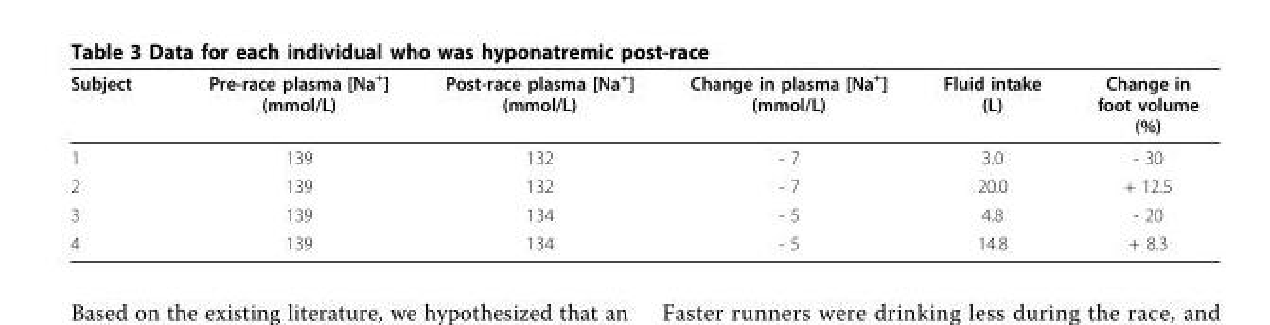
<table><thead><tr><td>Subject</td><td>Pre-race plasma [Na<sup>+</sup>] (mmol/L)</td><td>Post-race plasma [Na<sup>+</sup>] (mmol/L)</td><td>Change in plasma [Na<sup>+</sup>] (mmol/L)</td><td>Fluid intake (L)</td><td>Change in foot volume (%)</td></tr></thead><tbody><tr><td>1</td><td>139</td><td>132</td><td>- 7</td><td>3.0</td><td>- 30</td></tr><tr><td>2</td><td>139</td><td>132</td><td>- 7</td><td>20.0</td><td>+ 12.5</td></tr><tr><td>3</td><td>139</td><td>134</td><td>- 5</td><td>4.8</td><td>- 20</td></tr><tr><td>4</td><td>139</td><td>134</td><td>- 5</td><td>14.8</td><td>+ 8.3</td></tr></tbody></table>